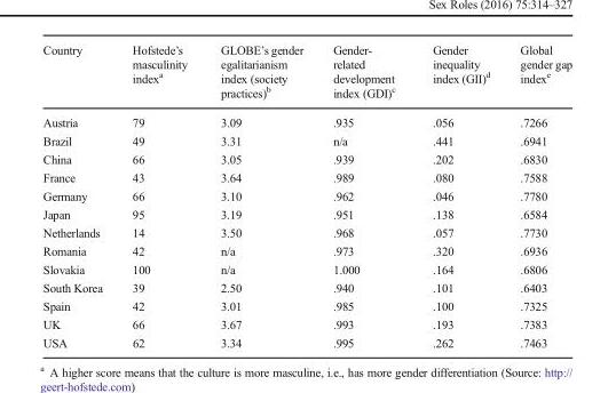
<table><thead><tr><td>Country</td><td>Hofstede’s masculinity index<sup>a</sup></td><td>GLOBE’s gender egalitarianism index (society practices)<sup>b</sup></td><td>Gender- related development index (GDI)<sup>c</sup></td><td>Gender inequality index (GII)<sup>d</sup></td><td>Global gender gap index<sup>e</sup></td></tr></thead><tbody><tr><td>Austria</td><td>79</td><td>3.09</td><td>.935</td><td>.056</td><td>.7266</td></tr><tr><td>Brazil</td><td>49</td><td>3.31</td><td>n/a</td><td>.441</td><td>.6941</td></tr><tr><td>China</td><td>66</td><td>3.05</td><td>.939</td><td>.202</td><td>.6830</td></tr><tr><td>France</td><td>43</td><td>3.64</td><td>.989</td><td>.080</td><td>.7588</td></tr><tr><td>Germany</td><td>66</td><td>3.10</td><td>.962</td><td>.046</td><td>.7780</td></tr><tr><td>Japan</td><td>95</td><td>3.19</td><td>.951</td><td>.138</td><td>.6584</td></tr><tr><td>Netherlands</td><td>14</td><td>3.50</td><td>.968</td><td>.057</td><td>.7730</td></tr><tr><td>Romania</td><td>42</td><td>n/a</td><td>.973</td><td>.320</td><td>.6936</td></tr><tr><td>Slovakia</td><td>100</td><td>n/a</td><td>1.000</td><td>.164</td><td>.6806</td></tr><tr><td>South Korea</td><td>39</td><td>2.50</td><td>.940</td><td>.101</td><td>.6403</td></tr><tr><td>Spain</td><td>42</td><td>3.01</td><td>.985</td><td>.100</td><td>.7325</td></tr><tr><td>UK</td><td>66</td><td>3.67</td><td>.993</td><td>.193</td><td>.7383</td></tr><tr><td>USA</td><td>62</td><td>3.34</td><td>.995</td><td>.262</td><td>.7463</td></tr></tbody></table>